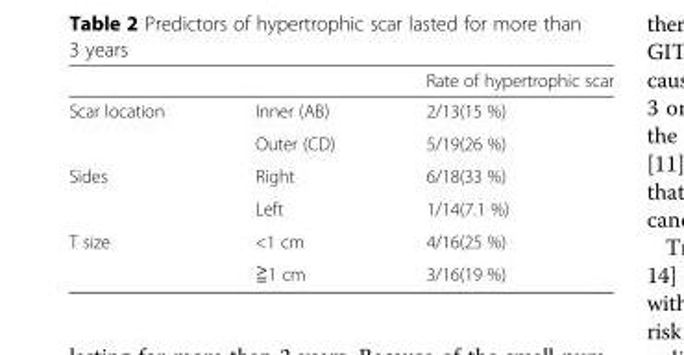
<table><thead><tr><td></td><td></td><td>Rate of hypertrophic scar</td></tr></thead><tbody><tr><td rowspan="2">Scar location</td><td>Inner (AB)</td><td>2/13(15 %)</td></tr><tr><td>Outer (CD)</td><td>5/19(26 %)</td></tr><tr><td rowspan="2">Sides</td><td>Right</td><td>6/18(33 %)</td></tr><tr><td>Left</td><td>1/14(7.1 %)</td></tr><tr><td rowspan="2">T size</td><td>&lt;1 cm</td><td>4/16(25 %)</td></tr><tr><td>≧1 cm</td><td>3/16(19 %)</td></tr></tbody></table>